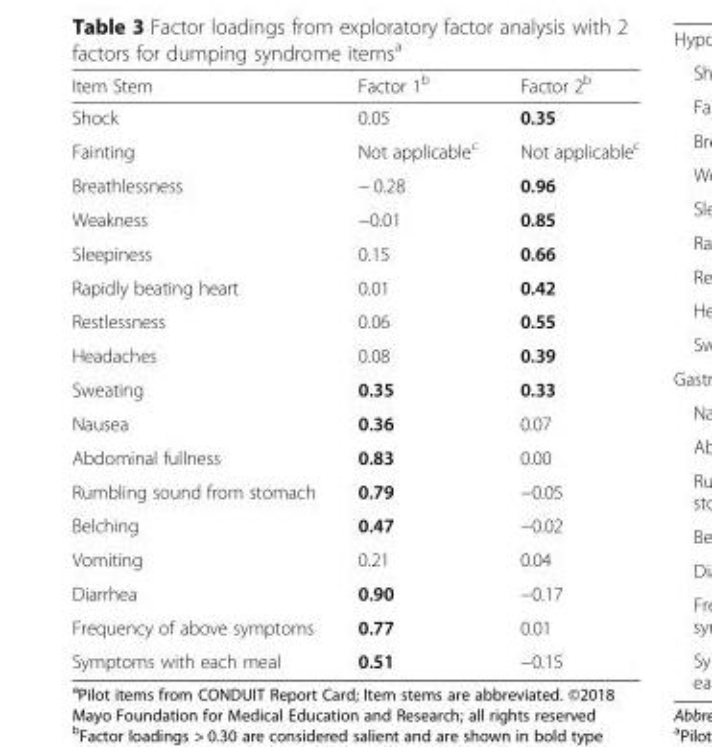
<table><thead><tr><td>Item Stem</td><td>Factor 1<sup>b</sup></td><td>Factor 2<sup>b</sup></td></tr></thead><tbody><tr><td>Shock</td><td>0.05</td><td>0.35</td></tr><tr><td>Fainting</td><td>Not applicable<sup>c</sup></td><td>Not applicable<sup>c</sup></td></tr><tr><td>Breathlessness</td><td>− 0.28</td><td>0.96</td></tr><tr><td>Weakness</td><td>−0.01</td><td>0.85</td></tr><tr><td>Sleepiness</td><td>0.15</td><td>0.66</td></tr><tr><td>Rapidly beating heart</td><td>0.01</td><td>0.42</td></tr><tr><td>Restlessness</td><td>0.06</td><td>0.55</td></tr><tr><td>Headaches</td><td>0.08</td><td>0.39</td></tr><tr><td>Sweating</td><td>0.35</td><td>0.33</td></tr><tr><td>Nausea</td><td>0.36</td><td>0.07</td></tr><tr><td>Abdominal fullness</td><td>0.83</td><td>0.00</td></tr><tr><td>Rumbling sound from stomach</td><td>0.79</td><td>−0.05</td></tr><tr><td>Belching</td><td>0.47</td><td>−0.02</td></tr><tr><td>Vomiting</td><td>0.21</td><td>0.04</td></tr><tr><td>Diarrhea</td><td>0.90</td><td>−0.17</td></tr><tr><td>Frequency of above symptoms</td><td>0.77</td><td>0.01</td></tr><tr><td>Symptoms with each meal</td><td>0.51</td><td>−0.15</td></tr></tbody></table>